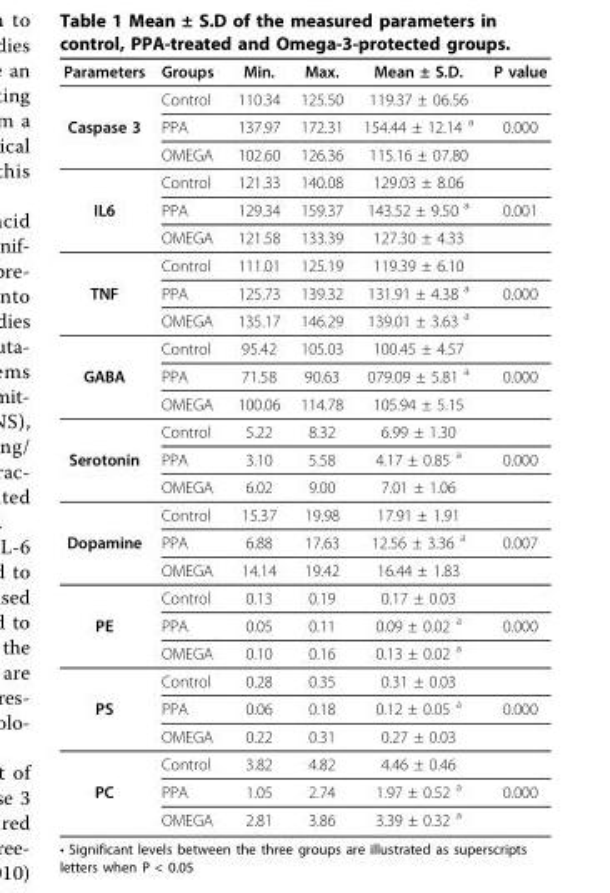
<table><thead><tr><td>Parameters</td><td>Groups</td><td>Min.</td><td>Max.</td><td>Mean ± S.D.</td><td>P value</td></tr></thead><tbody><tr><td></td><td>Control</td><td>110.34</td><td>125.50</td><td>119.37 ± 06.56</td><td></td></tr><tr><td rowspan="3">Caspase 3</td><td>PPA</td><td>137.97</td><td>172.31</td><td>154.44 ± 12.14 <sup>a</sup></td><td>0.000</td></tr><tr><td>OMEGA</td><td>102.60</td><td>126.36</td><td>115.16 ± 07.80</td><td></td></tr><tr><td>Control</td><td>121.33</td><td>140.08</td><td>129.03 ± 8.06</td><td></td></tr><tr><td rowspan="3">IL6</td><td>PPA</td><td>129.34</td><td>159.37</td><td>143.52 ± 9.50 <sup>a</sup></td><td>0.001</td></tr><tr><td>OMEGA</td><td>121.58</td><td>133.39</td><td>127.30 ± 4.33</td><td></td></tr><tr><td>Control</td><td>111.01</td><td>125.19</td><td>119.39 ± 6.10</td><td></td></tr><tr><td rowspan="3">TNF</td><td>PPA</td><td>125.73</td><td>139.32</td><td>131.91 ± 4.38 <sup>a</sup></td><td>0.000</td></tr><tr><td>OMEGA</td><td>135.17</td><td>146.29</td><td>139.01 ± 3.63 <sup>a</sup></td><td></td></tr><tr><td>Control</td><td>95.42</td><td>105.03</td><td>100.45 ± 4.57</td><td></td></tr><tr><td rowspan="3">GABA</td><td>PPA</td><td>71.58</td><td>90.63</td><td>079.09 ± 5.81 <sup>a</sup></td><td>0.000</td></tr><tr><td>OMEGA</td><td>100.06</td><td>114.78</td><td>105.94 ± 5.15</td><td></td></tr><tr><td>Control</td><td>5.22</td><td>8.32</td><td>6.99 ± 1.30</td><td></td></tr><tr><td rowspan="3">Serotonin</td><td>PPA</td><td>3.10</td><td>5.58</td><td>4.17 ± 0.85 <sup>a</sup></td><td>0.000</td></tr><tr><td>OMEGA</td><td>6.02</td><td>9.00</td><td>7.01 ± 1.06</td><td></td></tr><tr><td>Control</td><td>15.37</td><td>19.98</td><td>17.91 ± 1.91</td><td></td></tr><tr><td rowspan="3">Dopamine</td><td>PPA</td><td>6.88</td><td>17.63</td><td>12.56 ± 3.36 <sup>a</sup></td><td>0.007</td></tr><tr><td>OMEGA</td><td>14.14</td><td>19.42</td><td>16.44 ± 1.83</td><td></td></tr><tr><td>Control</td><td>0.13</td><td>0.19</td><td>0.17 ± 0.03</td><td></td></tr><tr><td rowspan="3">PE</td><td>PPA</td><td>0.05</td><td>0.11</td><td>0.09 ± 0.02 <sup>a</sup></td><td>0.000</td></tr><tr><td>OMEGA</td><td>0.10</td><td>0.16</td><td>0.13 ± 0.02 <sup>a</sup></td><td></td></tr><tr><td>Control</td><td>0.28</td><td>0.35</td><td>0.31 ± 0.03</td><td></td></tr><tr><td rowspan="3">PS</td><td>PPA</td><td>0.06</td><td>0.18</td><td>0.12 ± 0.05 <sup>a</sup></td><td>0.000</td></tr><tr><td>OMEGA</td><td>0.22</td><td>0.31</td><td>0.27 ± 0.03</td><td></td></tr><tr><td>Control</td><td>3.82</td><td>4.82</td><td>4.46 ± 0.46</td><td></td></tr><tr><td rowspan="2">PC</td><td>PPA</td><td>1.05</td><td>2.74</td><td>1.97 ± 0.52 <sup>a</sup></td><td>0.000</td></tr><tr><td>OMEGA</td><td>2.81</td><td>3.86</td><td>3.39 ± 0.32 <sup>a</sup></td><td></td></tr></tbody></table>